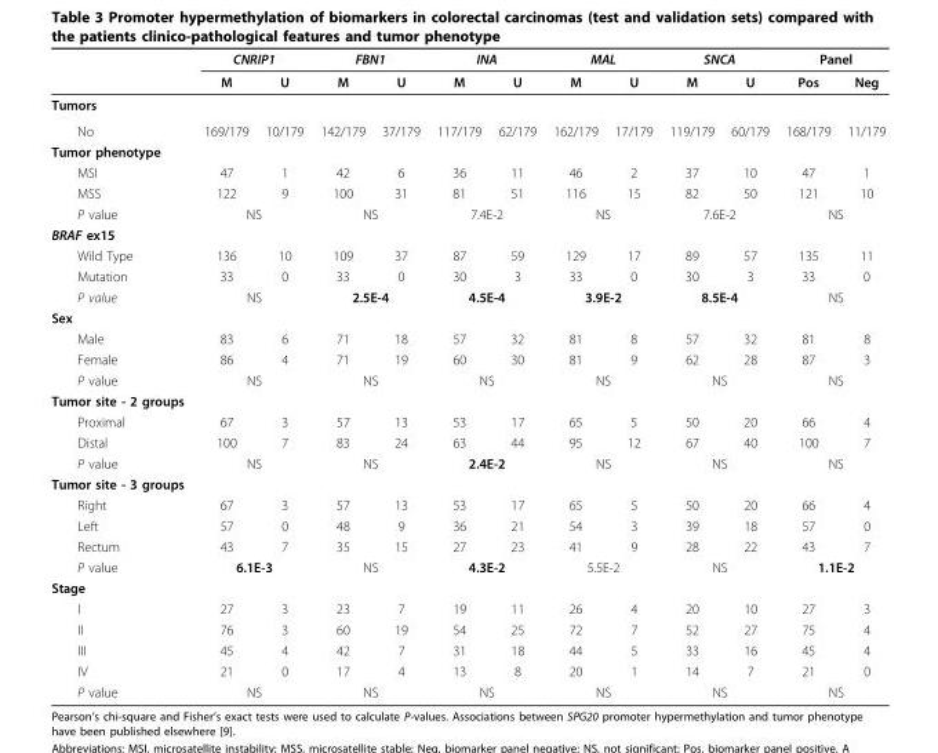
<table><thead><tr><td rowspan="2"></td><td colspan="2">CNRIP1</td><td colspan="2">FBN1</td><td colspan="2">INA</td><td colspan="2">MAL</td><td colspan="2">SNCA</td><td colspan="2">Panel</td></tr><tr><td>M</td><td>U</td><td>M</td><td>U</td><td>M</td><td>U</td><td>M</td><td>U</td><td>M</td><td>U</td><td>Pos</td><td>Neg</td></tr></thead><tbody><tr><td colspan="13">Tumors</td></tr><tr><td>No</td><td>169/179</td><td>10/179</td><td>142/179</td><td>37/179</td><td>117/179</td><td>62/179</td><td>162/179</td><td>17/179</td><td>119/179</td><td>60/179</td><td>168/179</td><td>11/179</td></tr><tr><td colspan="13">Tumor phenotype</td></tr><tr><td>MSI</td><td>47</td><td>1</td><td>42</td><td>6</td><td>36</td><td>11</td><td>46</td><td>2</td><td>37</td><td>10</td><td>47</td><td>1</td></tr><tr><td>MSS</td><td>122</td><td>9</td><td>100</td><td>31</td><td>81</td><td>51</td><td>116</td><td>15</td><td>82</td><td>50</td><td>121</td><td>10</td></tr><tr><td>P value</td><td colspan="2">NS</td><td colspan="2">NS</td><td colspan="2">7.4E-2</td><td colspan="2">NS</td><td colspan="2">7.6E-2</td><td colspan="2">NS</td></tr><tr><td colspan="13">BRAF ex15</td></tr><tr><td>Wild Type</td><td>136</td><td>10</td><td>109</td><td>37</td><td>87</td><td>59</td><td>129</td><td>17</td><td>89</td><td>57</td><td>135</td><td>11</td></tr><tr><td>Mutation</td><td>33</td><td>0</td><td>33</td><td>0</td><td>30</td><td>3</td><td>33</td><td>0</td><td>30</td><td>3</td><td>33</td><td>0</td></tr><tr><td>P value</td><td colspan="2">NS</td><td colspan="2">2.5E-4</td><td colspan="2">4.5E-4</td><td colspan="2">3.9E-2</td><td colspan="2">8.5E-4</td><td colspan="2">NS</td></tr><tr><td colspan="13">Sex</td></tr><tr><td>Male</td><td>83</td><td>6</td><td>71</td><td>18</td><td>57</td><td>32</td><td>81</td><td>8</td><td>57</td><td>32</td><td>81</td><td>8</td></tr><tr><td>Female</td><td>86</td><td>4</td><td>71</td><td>19</td><td>60</td><td>30</td><td>81</td><td>9</td><td>62</td><td>28</td><td>87</td><td>3</td></tr><tr><td>P value</td><td colspan="2">NS</td><td colspan="2">NS</td><td colspan="2">NS</td><td colspan="2">NS</td><td colspan="2">NS</td><td colspan="2">NS</td></tr><tr><td colspan="13">Tumor site - 2 groups</td></tr><tr><td>Proximal</td><td>67</td><td>3</td><td>57</td><td>13</td><td>53</td><td>17</td><td>65</td><td>5</td><td>50</td><td>20</td><td>66</td><td>4</td></tr><tr><td>Distal</td><td>100</td><td>7</td><td>83</td><td>24</td><td>63</td><td>44</td><td>95</td><td>12</td><td>67</td><td>40</td><td>100</td><td>7</td></tr><tr><td>P value</td><td colspan="2">NS</td><td colspan="2">NS</td><td colspan="2">2.4E-2</td><td colspan="2">NS</td><td colspan="2">NS</td><td colspan="2">NS</td></tr><tr><td colspan="13">Tumor site - 3 groups</td></tr><tr><td>Right</td><td>67</td><td>3</td><td>57</td><td>13</td><td>53</td><td>17</td><td>65</td><td>5</td><td>50</td><td>20</td><td>66</td><td>4</td></tr><tr><td>Left</td><td>57</td><td>0</td><td>48</td><td>9</td><td>36</td><td>21</td><td>54</td><td>3</td><td>39</td><td>18</td><td>57</td><td>0</td></tr><tr><td>Rectum</td><td>43</td><td>7</td><td>35</td><td>15</td><td>27</td><td>23</td><td>41</td><td>9</td><td>28</td><td>22</td><td>43</td><td>7</td></tr><tr><td>P value</td><td colspan="2">6.1E-3</td><td colspan="2">NS</td><td colspan="2">4.3E-2</td><td colspan="2">5.5E-2</td><td colspan="2">NS</td><td colspan="2">1.1E-2</td></tr><tr><td colspan="13">Stage</td></tr><tr><td>I</td><td>27</td><td>3</td><td>23</td><td>7</td><td>19</td><td>11</td><td>26</td><td>4</td><td>20</td><td>10</td><td>27</td><td>3</td></tr><tr><td>II</td><td>76</td><td>3</td><td>60</td><td>19</td><td>54</td><td>25</td><td>72</td><td>7</td><td>52</td><td>27</td><td>75</td><td>4</td></tr><tr><td>III</td><td>45</td><td>4</td><td>42</td><td>7</td><td>31</td><td>18</td><td>44</td><td>5</td><td>33</td><td>16</td><td>45</td><td>4</td></tr><tr><td>IV</td><td>21</td><td>0</td><td>17</td><td>4</td><td>13</td><td>8</td><td>20</td><td>1</td><td>14</td><td>7</td><td>21</td><td>0</td></tr><tr><td>P value</td><td colspan="2">NS</td><td colspan="2">NS</td><td colspan="2">NS</td><td colspan="2">NS</td><td colspan="2">NS</td><td colspan="2">NS</td></tr></tbody></table>